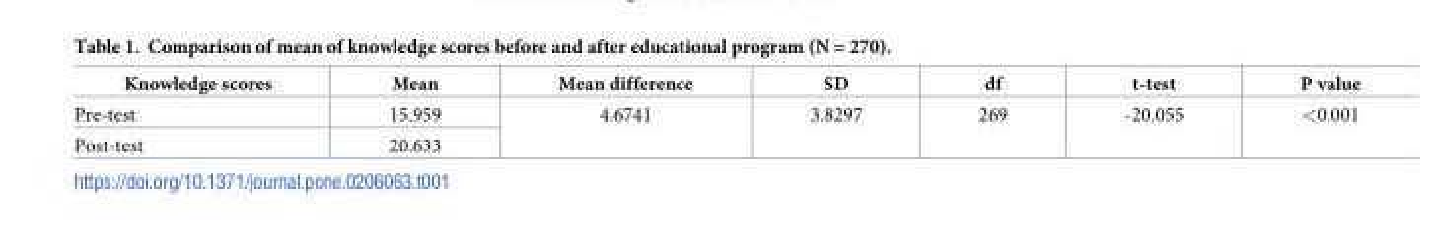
<table><thead><tr><td>Knowledge scores</td><td>Mean</td><td>Mean difference</td><td>SD</td><td>df</td><td>t-test</td><td>P value</td></tr></thead><tbody><tr><td>Pre-test</td><td>15.959</td><td rowspan="2">4.6741</td><td rowspan="2">3.8297</td><td rowspan="2">269</td><td rowspan="2">-20.055</td><td rowspan="2">&lt;0.001</td></tr><tr><td>Post-test</td><td>20.633</td></tr></tbody></table>